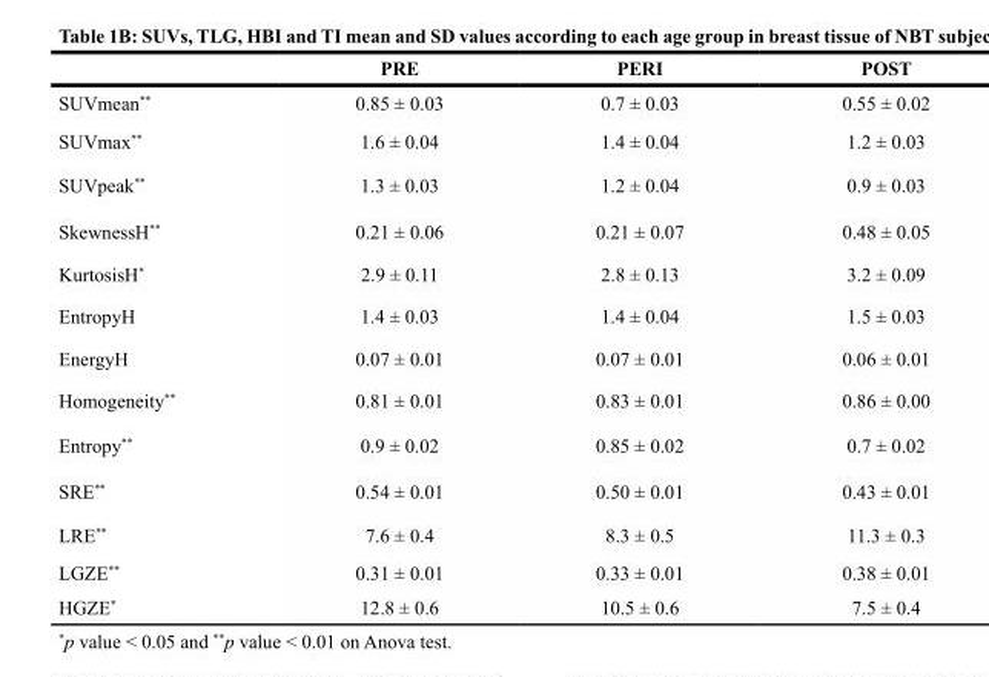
<table><thead><tr><td></td><td>PRE</td><td>PERI</td><td>POST</td></tr></thead><tbody><tr><td>SUVmean**</td><td>0.85 ± 0.03</td><td>0.7 ± 0.03</td><td>0.55 ± 0.02</td></tr><tr><td>SUVmax**</td><td>1.6 ± 0.04</td><td>1.4 ± 0.04</td><td>1.2 ± 0.03</td></tr><tr><td>SUVpeak**</td><td>1.3 ± 0.03</td><td>1.2 ± 0.04</td><td>0.9 ± 0.03</td></tr><tr><td>SkewnessH**</td><td>0.21 ± 0.06</td><td>0.21 ± 0.07</td><td>0.48 ± 0.05</td></tr><tr><td>KurtosisH*</td><td>2.9 ± 0.11</td><td>2.8 ± 0.13</td><td>3.2 ± 0.09</td></tr><tr><td>EntropyH</td><td>1.4 ± 0.03</td><td>1.4 ± 0.04</td><td>1.5 ± 0.03</td></tr><tr><td>EnergyH</td><td>0.07 ± 0.01</td><td>0.07 ± 0.01</td><td>0.06 ± 0.01</td></tr><tr><td>Homogeneity**</td><td>0.81 ± 0.01</td><td>0.83 ± 0.01</td><td>0.86 ± 0.00</td></tr><tr><td>Entropy**</td><td>0.9 ± 0.02</td><td>0.85 ± 0.02</td><td>0.7 ± 0.02</td></tr><tr><td>SRE**</td><td>0.54 ± 0.01</td><td>0.50 ± 0.01</td><td>0.43 ± 0.01</td></tr><tr><td>LRE**</td><td>7.6 ± 0.4</td><td>8.3 ± 0.5</td><td>11.3 ± 0.3</td></tr><tr><td>LGZE**</td><td>0.31 ± 0.01</td><td>0.33 ± 0.01</td><td>0.38 ± 0.01</td></tr><tr><td>HGZE*</td><td>12.8 ± 0.6</td><td>10.5 ± 0.6</td><td>7.5 ± 0.4</td></tr></tbody></table>